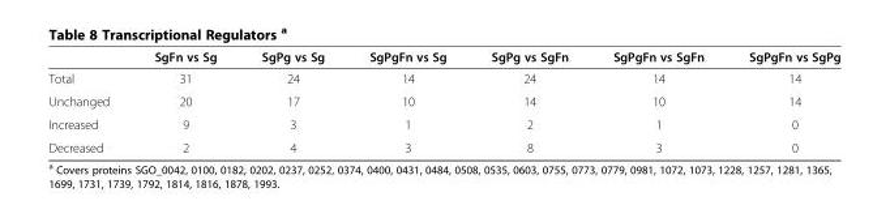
<table><thead><tr><td></td><td>SgFn vs Sg</td><td>SgPg vs Sg</td><td>SgPgFn vs Sg</td><td>SgPg vs SgFn</td><td>SgPgFn vs SgFn</td><td>SgPgFn vs SgPg</td></tr></thead><tbody><tr><td>Total</td><td>31</td><td>24</td><td>14</td><td>24</td><td>14</td><td>14</td></tr><tr><td>Unchanged</td><td>20</td><td>17</td><td>10</td><td>14</td><td>10</td><td>14</td></tr><tr><td>Increased</td><td>9</td><td>3</td><td>1</td><td>2</td><td>1</td><td>0</td></tr><tr><td>Decreased</td><td>2</td><td>4</td><td>3</td><td>8</td><td>3</td><td>0</td></tr></tbody></table>